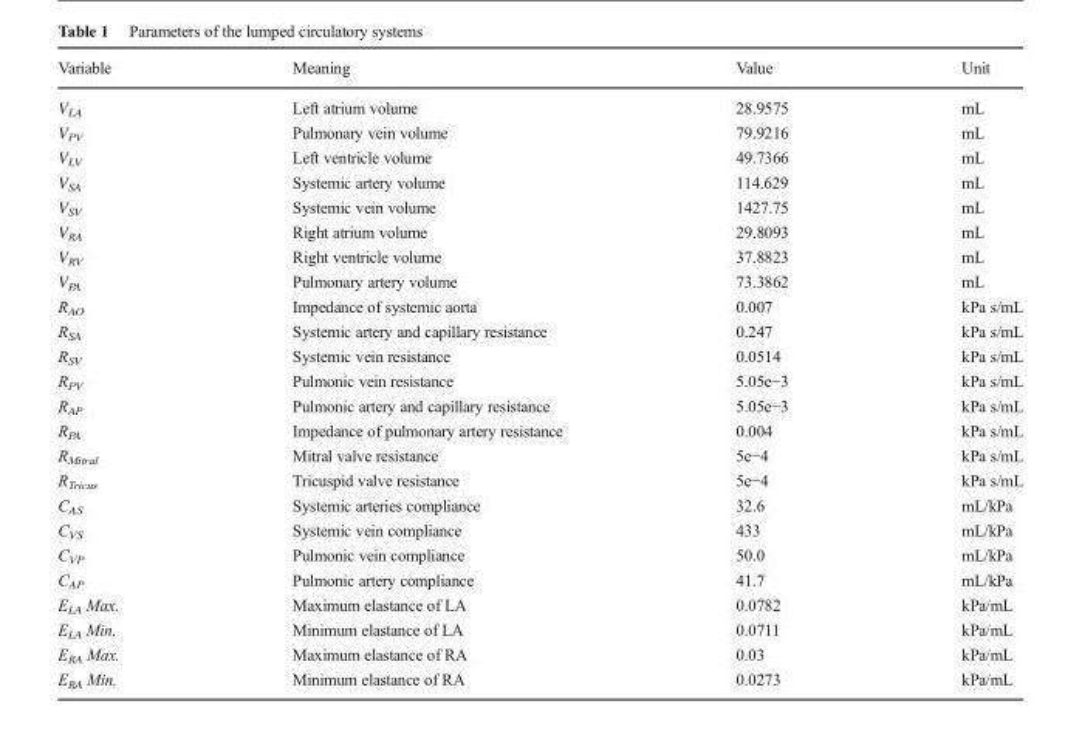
<table><thead><tr><td>Variable</td><td>Meaning</td><td>Value</td><td>Unit</td></tr></thead><tbody><tr><td>V<sub>LA</sub></td><td>Left atrium volume</td><td>28.9575</td><td>mL</td></tr><tr><td>V<sub>PV</sub></td><td>Pulmonary vein volume</td><td>79.9216</td><td>mL</td></tr><tr><td>V<sub>LV</sub></td><td>Left ventricle volume</td><td>49.7366</td><td>mL</td></tr><tr><td>V<sub>SA</sub></td><td>Systemic artery volume</td><td>114.629</td><td>mL</td></tr><tr><td>V<sub>SV</sub></td><td>Systemic vein volume</td><td>1427.75</td><td>mL</td></tr><tr><td>V<sub>RA</sub></td><td>Right atrium volume</td><td>29.8093</td><td>mL</td></tr><tr><td>V<sub>RV</sub></td><td>Right ventricle volume</td><td>37.8823</td><td>mL</td></tr><tr><td>V<sub>PA</sub></td><td>Pulmonary artery volume</td><td>73.3862</td><td>mL</td></tr><tr><td>R<sub>AO</sub></td><td>Impedance of systemic aorta</td><td>0.007</td><td>kPa s/mL</td></tr><tr><td>R<sub>SA</sub></td><td>Systemic artery and capillary resistance</td><td>0.247</td><td>kPa s/mL</td></tr><tr><td>R<sub>SV</sub></td><td>Systemic vein resistance</td><td>0.0514</td><td>kPa s/mL</td></tr><tr><td>R<sub>PV</sub></td><td>Pulmonic vein resistance</td><td>5.05e−3</td><td>kPa s/mL</td></tr><tr><td>R<sub>AP</sub></td><td>Pulmonic artery and capillary resistance</td><td>5.05e−3</td><td>kPa s/mL</td></tr><tr><td>R<sub>PA</sub></td><td>Impedance of pulmonary artery resistance</td><td>0.004</td><td>kPa s/mL</td></tr><tr><td>R<sub>Mitral</sub></td><td>Mitral valve resistance</td><td>5e−4</td><td>kPa s/mL</td></tr><tr><td>R<sub>Tricus</sub></td><td>Tricuspid valve resistance</td><td>5e−4</td><td>kPa s/mL</td></tr><tr><td>C<sub>AS</sub></td><td>Systemic arteries compliance</td><td>32.6</td><td>mL/kPa</td></tr><tr><td>C<sub>VS</sub></td><td>Systemic vein compliance</td><td>433</td><td>mL/kPa</td></tr><tr><td>C<sub>VP</sub></td><td>Pulmonic vein compliance</td><td>50.0</td><td>mL/kPa</td></tr><tr><td>C<sub>AP</sub></td><td>Pulmonic artery compliance</td><td>41.7</td><td>mL/kPa</td></tr><tr><td>E<sub>LA</sub> Max.</td><td>Maximum elastance of LA</td><td>0.0782</td><td>kPa/mL</td></tr><tr><td>E<sub>LA</sub> Min.</td><td>Minimum elastance of LA</td><td>0.0711</td><td>kPa/mL</td></tr><tr><td>E<sub>RA</sub> Max.</td><td>Maximum elastance of RA</td><td>0.03</td><td>kPa/mL</td></tr><tr><td>E<sub>RA</sub> Min.</td><td>Minimum elastance of RA</td><td>0.0273</td><td>kPa/mL</td></tr></tbody></table>